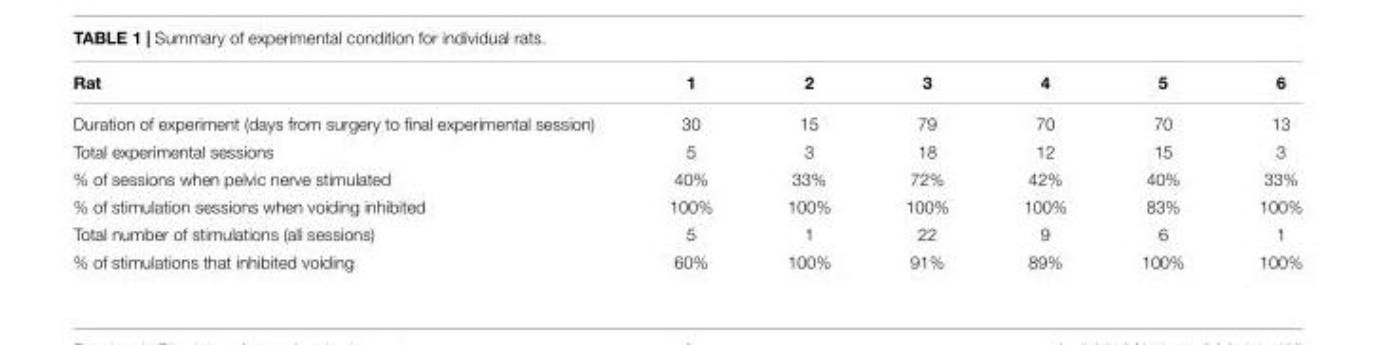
<table><thead><tr><td>Rat</td><td>1</td><td>2</td><td>3</td><td>4</td><td>5</td><td>6</td></tr></thead><tbody><tr><td>Duration of experiment (days from surgery to final experimental session)</td><td>30</td><td>15</td><td>79</td><td>70</td><td>70</td><td>13</td></tr><tr><td>Total experimental sessions</td><td>5</td><td>3</td><td>18</td><td>12</td><td>15</td><td>3</td></tr><tr><td>% of sessions when pelvic nerve stimulated</td><td>40%</td><td>33%</td><td>72%</td><td>42%</td><td>40%</td><td>33%</td></tr><tr><td>% of stimulation sessions when voiding inhibited</td><td>100%</td><td>100%</td><td>100%</td><td>100%</td><td>83%</td><td>100%</td></tr><tr><td>Total number of stimulations (all sessions)</td><td>5</td><td>1</td><td>22</td><td>9</td><td>6</td><td>1</td></tr><tr><td>% of stimulations that inhibited voiding</td><td>60%</td><td>100%</td><td>91%</td><td>89%</td><td>100%</td><td>100%</td></tr></tbody></table>